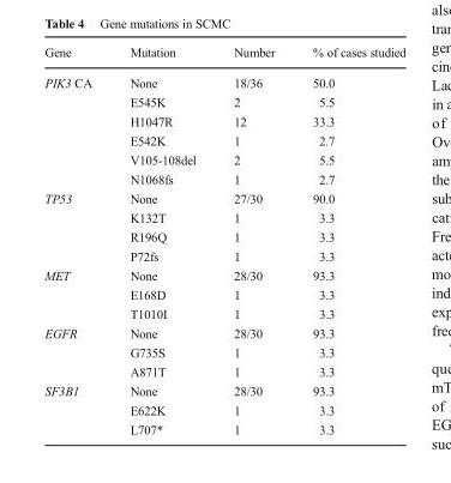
<table><thead><tr><td>Gene</td><td>Mutation</td><td>Number</td><td>% of cases studied</td></tr></thead><tbody><tr><td rowspan="6">PIK3 CA</td><td>None</td><td>18/36</td><td>50.0</td></tr><tr><td>E545K</td><td>2</td><td>5.5</td></tr><tr><td>H1047R</td><td>12</td><td>33.3</td></tr><tr><td>E542K</td><td>1</td><td>2.7</td></tr><tr><td>V105-108del</td><td>2</td><td>5.5</td></tr><tr><td>N1068fs</td><td>1</td><td>2.7</td></tr><tr><td rowspan="4">TP53</td><td>None</td><td>27/30</td><td>90.0</td></tr><tr><td>K132T</td><td>1</td><td>3.3</td></tr><tr><td>R196Q</td><td>1</td><td>3.3</td></tr><tr><td>P72fs</td><td>1</td><td>3.3</td></tr><tr><td rowspan="3">MET</td><td>None</td><td>28/30</td><td>93.3</td></tr><tr><td>E168D</td><td>1</td><td>3.3</td></tr><tr><td>T1010I</td><td>1</td><td>3.3</td></tr><tr><td rowspan="3">EGFR</td><td>None</td><td>28/30</td><td>93.3</td></tr><tr><td>G735S</td><td>1</td><td>3.3</td></tr><tr><td>A871T</td><td>1</td><td>3.3</td></tr><tr><td rowspan="3">SF3B1</td><td>None</td><td>28/30</td><td>93.3</td></tr><tr><td>E622K</td><td>1</td><td>3.3</td></tr><tr><td>L707*</td><td>1</td><td>3.3</td></tr></tbody></table>